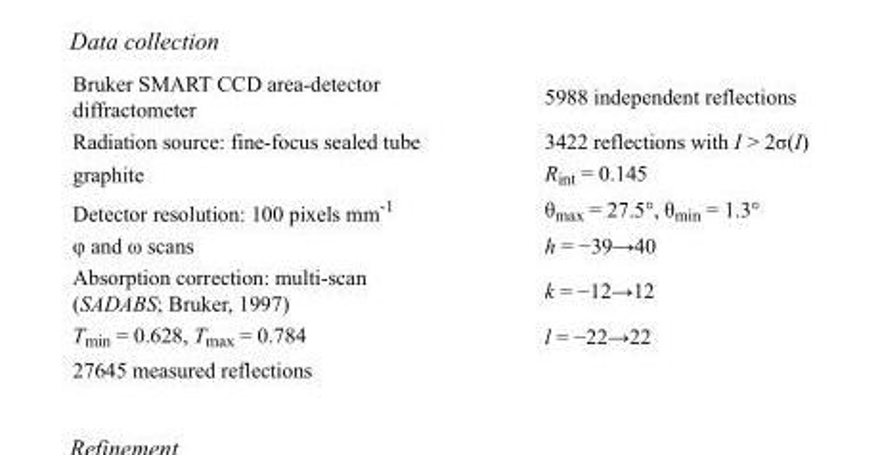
<table><tbody><tr><td>Bruker SMART CCD area-detector diffractometer</td><td>5988 independent reflections</td></tr><tr><td>Radiation source: fine-focus sealed tube</td><td>3422 reflections with I &gt; 2σ(I)</td></tr><tr><td>graphite</td><td>R<sub>int</sub> = 0.145</td></tr><tr><td>Detector resolution: 100 pixels mm<sup>-1</sup></td><td>θ<sub>max</sub> = 27.5°, θ<sub>min</sub> = 1.3°</td></tr><tr><td>φ and ω scans</td><td>h = −39→40</td></tr><tr><td>Absorption correction: multi-scan (SADABS; Bruker, 1997)</td><td>k = −12→12</td></tr><tr><td>T<sub>min</sub> = 0.628, T<sub>max</sub> = 0.784</td><td>l = −22→22</td></tr><tr><td>27645 measured reflections</td><td></td></tr></tbody></table>